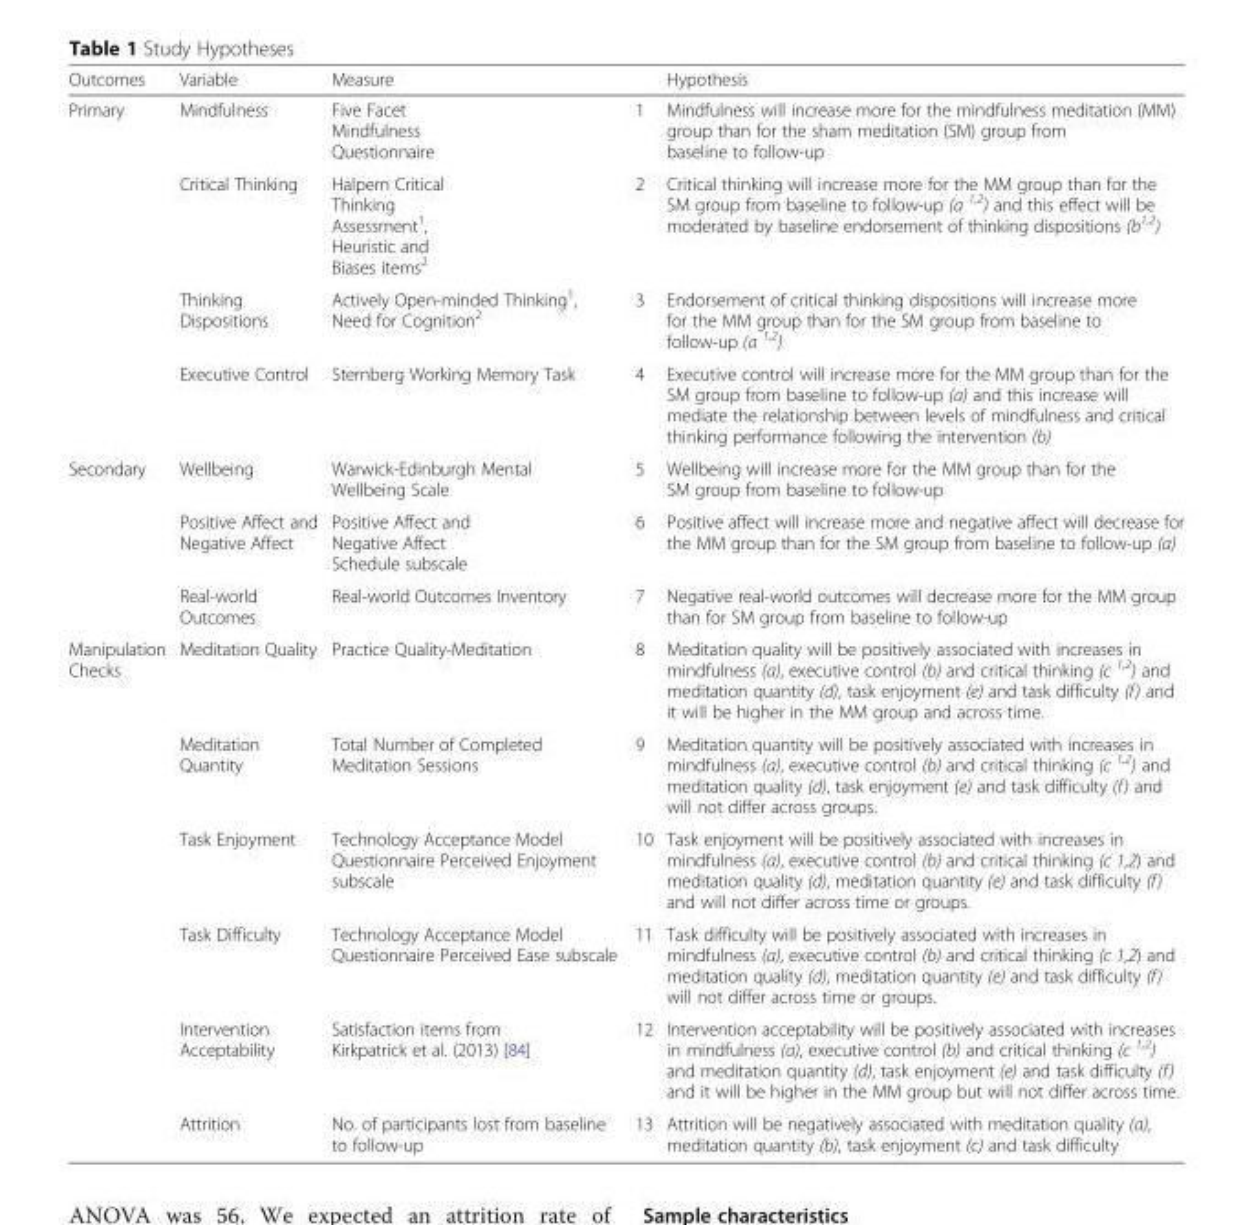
<table><thead><tr><td>Outcomes</td><td>Variable</td><td>Measure</td><td></td><td>Hypothesis</td></tr></thead><tbody><tr><td rowspan="4">Primary</td><td>Mindfulness</td><td>Five Facet Mindfulness Questionnaire</td><td>1</td><td>Mindfulness will increase more for the mindfulness meditation (MM) group than for the sham meditation (SM) group from baseline to follow-up</td></tr><tr><td>Critical Thinking</td><td>Halpern Critical Thinking Assessment<sup>1</sup>, Heuristic and Biases items<sup>2</sup></td><td>2</td><td>Critical thinking will increase more for the MM group than for the SM group from baseline to follow-up (a <sup>1,2</sup>) and this effect will be moderated by baseline endorsement of thinking dispositions (b<sup>1,2</sup>)</td></tr><tr><td>Thinking Dispositions</td><td>Actively Open-minded Thinking<sup>1</sup>, Need for Cognition<sup>2</sup></td><td>3</td><td>Endorsement of critical thinking dispositions will increase more for the MM group than for the SM group from baseline to follow-up (a <sup>1,2</sup>)</td></tr><tr><td>Executive Control</td><td>Sternberg Working Memory Task</td><td>4</td><td>Executive control will increase more for the MM group than for the SM group from baseline to follow-up (a) and this increase will mediate the relationship between levels of mindfulness and critical thinking performance following the intervention (b)</td></tr><tr><td rowspan="3">Secondary</td><td>Wellbeing</td><td>Warwick-Edinburgh Mental Wellbeing Scale</td><td>5</td><td>Wellbeing will increase more for the MM group than for the SM group from baseline to follow-up</td></tr><tr><td>Positive Affect and Negative Affect</td><td>Positive Affect and Negative Affect Schedule subscale</td><td>6</td><td>Positive affect will increase more and negative affect will decrease for the MM group than for the SM group from baseline to follow-up (a)</td></tr><tr><td>Real-world Outcomes</td><td>Real-world Outcomes Inventory</td><td>7</td><td>Negative real-world outcomes will decrease more for the MM group than for SM group from baseline to follow-up</td></tr><tr><td rowspan="6">Manipulation Checks</td><td>Meditation Quality</td><td>Practice Quality-Meditation</td><td>8</td><td>Meditation quality will be positively associated with increases in mindfulness (a), executive control (b) and critical thinking (c <sup>1,2</sup>) and meditation quantity (d), task enjoyment (e) and task difficulty (f) and it will be higher in the MM group and across time.</td></tr><tr><td>Meditation Quantity</td><td>Total Number of Completed Meditation Sessions</td><td>9</td><td>Meditation quantity will be positively associated with increases in mindfulness (a), executive control (b) and critical thinking (c <sup>1,2</sup>) and meditation quality (d), task enjoyment (e) and task difficulty (f) and will not differ across groups.</td></tr><tr><td>Task Enjoyment</td><td>Technology Acceptance Model Questionnaire Perceived Enjoyment subscale</td><td>10</td><td>Task enjoyment will be positively associated with increases in mindfulness (a), executive control (b) and critical thinking (c 1,2) and meditation quality (d), meditation quantity (e) and task difficulty (f) and will not differ across time or groups.</td></tr><tr><td>Task Difficulty</td><td>Technology Acceptance Model Questionnaire Perceived Ease subscale</td><td>11</td><td>Task difficulty will be positively associated with increases in mindfulness (a), executive control (b) and critical thinking (c 1,2) and meditation quality (d), meditation quantity (e) and task difficulty (f) will not differ across time or groups.</td></tr><tr><td>Intervention Acceptability</td><td>Satisfaction items from Kirkpatrick et al. (2013) [84]</td><td>12</td><td>Intervention acceptability will be positively associated with increases in mindfulness (a), executive control (b) and critical thinking (c <sup>1,2</sup>) and meditation quantity (d), task enjoyment (e) and task difficulty (f) and it will be higher in the MM group but will not differ across time.</td></tr><tr><td>Attrition</td><td>No. of participants lost from baseline to follow-up</td><td>13</td><td>Attrition will be negatively associated with meditation quality (a), meditation quantity (b), task enjoyment (c) and task difficulty</td></tr></tbody></table>